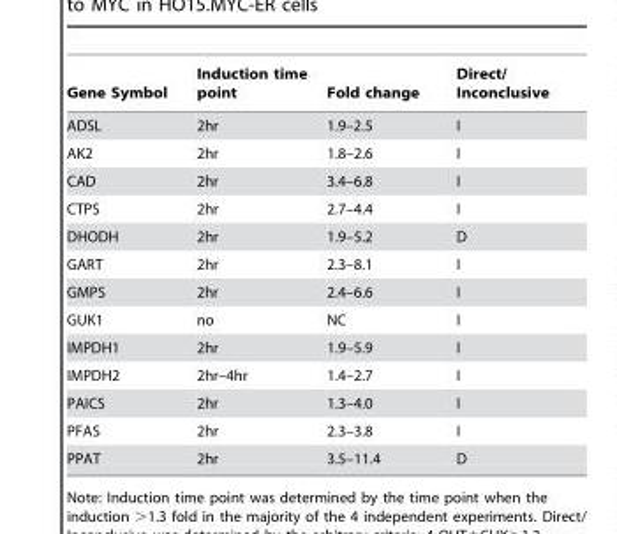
<table><thead><tr><td>Gene Symbol</td><td>Induction time point</td><td>Fold change</td><td>Direct/ Inconclusive</td></tr></thead><tbody><tr><td>ADSL</td><td>2hr</td><td>1.9–2.5</td><td>I</td></tr><tr><td>AK2</td><td>2hr</td><td>1.8–2.6</td><td>I</td></tr><tr><td>CAD</td><td>2hr</td><td>3.4–6.8</td><td>I</td></tr><tr><td>CTPS</td><td>2hr</td><td>2.7–4.4</td><td>I</td></tr><tr><td>DHODH</td><td>2hr</td><td>1.9–5.2</td><td>D</td></tr><tr><td>GART</td><td>2hr</td><td>2.3–8.1</td><td>I</td></tr><tr><td>GMPS</td><td>2hr</td><td>2.4–6.6</td><td>I</td></tr><tr><td>GUK1</td><td>no</td><td>NC</td><td>I</td></tr><tr><td>IMPDH1</td><td>2hr</td><td>1.9–5.9</td><td>I</td></tr><tr><td>IMPDH2</td><td>2hr–4hr</td><td>1.4–2.7</td><td>I</td></tr><tr><td>PAICS</td><td>2hr</td><td>1.3–4.0</td><td>I</td></tr><tr><td>PFAS</td><td>2hr</td><td>2.3–3.8</td><td>I</td></tr><tr><td>PPAT</td><td>2hr</td><td>3.5–11.4</td><td>D</td></tr></tbody></table>